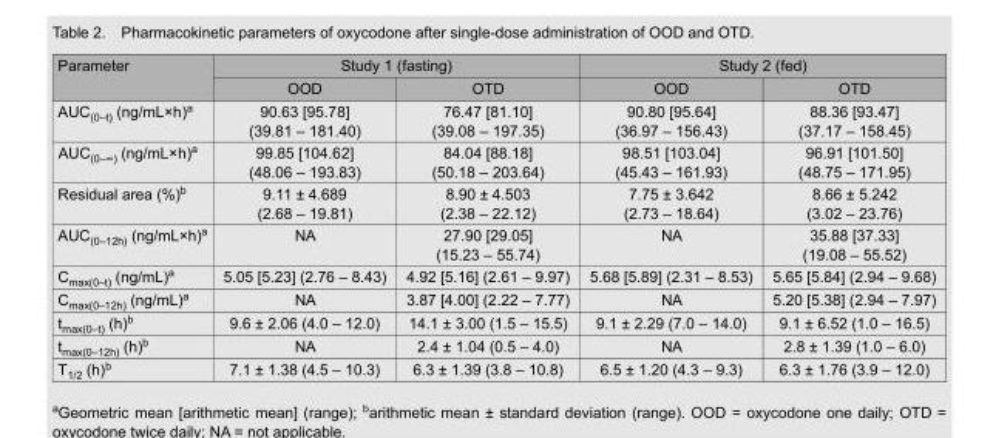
<table><thead><tr><td rowspan="2">Parameter</td><td colspan="2">Study 1 (fasting)</td><td colspan="2">Study 2 (fed)</td></tr><tr><td>OOD</td><td>OTD</td><td>OOD</td><td>OTD</td></tr></thead><tbody><tr><td>AUC<sub>(0–t)</sub> (ng/mL×h)<sup>a</sup></td><td>90.63 [95.78] (39.81 – 181.40)</td><td>76.47 [81.10] (39.08 – 197.35)</td><td>90.80 [95.64] (36.97 – 156.43)</td><td>88.36 [93.47] (37.17 – 158.45)</td></tr><tr><td>AUC<sub>(0–∞)</sub> (ng/mL×h)<sup>a</sup></td><td>99.85 [104.62] (48.06 – 193.83)</td><td>84.04 [88.18] (50.18 – 203.64)</td><td>98.51 [103.04] (45.43 – 161.93)</td><td>96.91 [101.50] (48.75 – 171.95)</td></tr><tr><td>Residual area (%)<sup>b</sup></td><td>9.11 ± 4.689 (2.68 – 19.81)</td><td>8.90 ± 4.503 (2.38 – 22.12)</td><td>7.75 ± 3.642 (2.73 – 18.64)</td><td>8.66 ± 5.242 (3.02 – 23.76)</td></tr><tr><td>AUC<sub>(0–12h)</sub> (ng/mL×h)<sup>a</sup></td><td>NA</td><td>27.90 [29.05] (15.23 – 55.74)</td><td>NA</td><td>35.88 [37.33] (19.08 – 55.52)</td></tr><tr><td>C<sub>max(0–t)</sub> (ng/mL)<sup>a</sup></td><td>5.05 [5.23] (2.76 – 8.43)</td><td>4.92 [5.16] (2.61 – 9.97)</td><td>5.68 [5.89] (2.31 – 8.53)</td><td>5.65 [5.84] (2.94 – 9.68)</td></tr><tr><td>C<sub>max(0–12h)</sub> (ng/mL)<sup>a</sup></td><td>NA</td><td>3.87 [4.00] (2.22 – 7.77)</td><td>NA</td><td>5.20 [5.38] (2.94 – 7.97)</td></tr><tr><td>t<sub>max(0–t)</sub> (h)<sup>b</sup></td><td>9.6 ± 2.06 (4.0 – 12.0)</td><td>14.1 ± 3.00 (1.5 – 15.5)</td><td>9.1 ± 2.29 (7.0 – 14.0)</td><td>9.1 ± 6.52 (1.0 – 16.5)</td></tr><tr><td>t<sub>max(0–12h)</sub> (h)<sup>b</sup></td><td>NA</td><td>2.4 ± 1.04 (0.5 – 4.0)</td><td>NA</td><td>2.8 ± 1.39 (1.0 – 6.0)</td></tr><tr><td>T<sub>1/2</sub> (h)<sup>b</sup></td><td>7.1 ± 1.38 (4.5 – 10.3)</td><td>6.3 ± 1.39 (3.8 – 10.8)</td><td>6.5 ± 1.20 (4.3 – 9.3)</td><td>6.3 ± 1.76 (3.9 – 12.0)</td></tr></tbody></table>